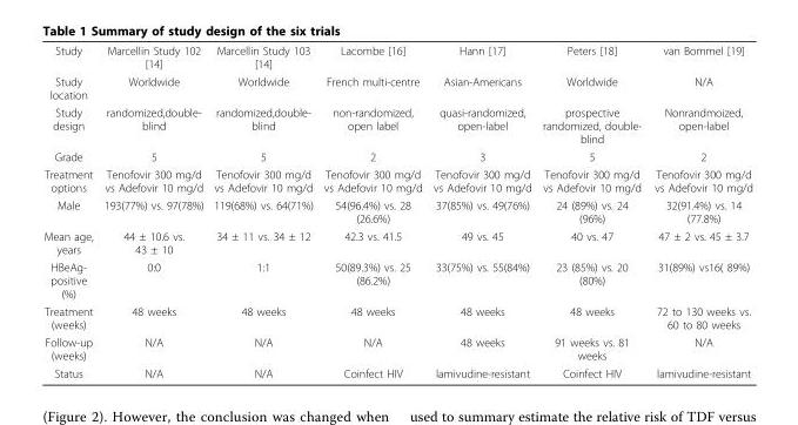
<table><tbody><tr><td>Study</td><td>Marcellin Study 102 [14]</td><td>Marcellin Study 103 [14]</td><td>Lacombe [16]</td><td>Hann [17]</td><td>Peters [18]</td><td>van Bommel [19]</td></tr><tr><td>Study location</td><td>Worldwide</td><td>Worldwide</td><td>French multi-centre</td><td>Asian-Americans</td><td>Worldwide</td><td>N/A</td></tr><tr><td>Study design</td><td>randomized,double- blind</td><td>randomized,double- blind</td><td>non-randomized, open label</td><td>quasi-randomized, open-label</td><td>prospective randomized, double- blind</td><td>Nonrandmoized, open-label</td></tr><tr><td>Grade</td><td>5</td><td>5</td><td>2</td><td>3</td><td>5</td><td>2</td></tr><tr><td>Treatment options</td><td>Tenofovir 300 mg/d vs Adefovir 10 mg/d</td><td>Tenofovir 300 mg/d vs Adefovir 10 mg/d</td><td>Tenofovir 300 mg/d vs Adefovir 10 mg/d</td><td>Tenofovir 300 mg/d vs Adefovir 10 mg/d</td><td>Tenofovir 300 mg/d vs Adefovir 10 mg/d</td><td>Tenofovir 300 mg/d vs Adefovir 10 mg/d</td></tr><tr><td>Male</td><td>193(77%) vs. 97(78%)</td><td>119(68%) vs. 64(71%)</td><td>54(96.4%) vs. 28 (26.6%)</td><td>37(85%) vs. 49(76%)</td><td>24 (89%) vs. 24 (96%)</td><td>32(91.4%) vs. 14 (77.8%)</td></tr><tr><td>Mean age, years</td><td>44 ± 10.6 vs. 43 ± 10</td><td>34 ± 11 vs. 34 ± 12</td><td>42.3 vs. 41.5</td><td>49 vs. 45</td><td>40 vs. 47</td><td>47 ± 2 vs. 45 ± 3.7</td></tr><tr><td>HBeAg- positive (%)</td><td>0:0</td><td>1:1</td><td>50(89.3%) vs. 25 (86.2%)</td><td>33(75%) vs. 55(84%)</td><td>23 (85%) vs. 20 (80%)</td><td>31(89%) vs16( 89%)</td></tr><tr><td>Treatment (weeks)</td><td>48 weeks</td><td>48 weeks</td><td>48 weeks</td><td>48 weeks</td><td>48 weeks</td><td>72 to 130 weeks vs. 60 to 80 weeks</td></tr><tr><td>Follow-up (weeks)</td><td>N/A</td><td>N/A</td><td>N/A</td><td>48 weeks</td><td>91 weeks vs. 81 weeks</td><td>N/A</td></tr><tr><td>Status</td><td>N/A</td><td>N/A</td><td>Coinfect HIV</td><td>lamivudine-resistant</td><td>Coinfect HIV</td><td>lamivudine-resistant</td></tr></tbody></table>